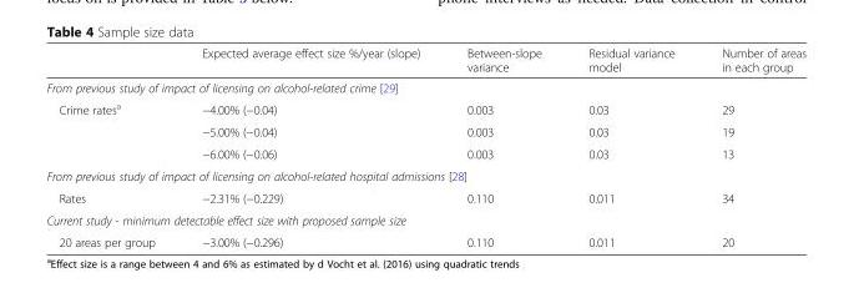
<table><thead><tr><td></td><td>Expected average effect size %/year (slope)</td><td>Between-slope variance</td><td>Residual variance model</td><td>Number of areas in each group</td></tr></thead><tbody><tr><td colspan="5">From previous study of impact of licensing on alcohol-related crime [29]</td></tr><tr><td rowspan="3">Crime rates<sup>a</sup></td><td>−4.00% (−0.04)</td><td>0.003</td><td>0.03</td><td>29</td></tr><tr><td>−5.00% (−0.04)</td><td>0.003</td><td>0.03</td><td>19</td></tr><tr><td>−6.00% (−0.06)</td><td>0.003</td><td>0.03</td><td>13</td></tr><tr><td colspan="5">From previous study of impact of licensing on alcohol-related hospital admissions [28]</td></tr><tr><td>Rates</td><td>−2.31% (−0.229)</td><td>0.110</td><td>0.011</td><td>34</td></tr><tr><td colspan="5">Current study - minimum detectable effect size with proposed sample size</td></tr><tr><td>20 areas per group</td><td>−3.00% (−0.296)</td><td>0.110</td><td>0.011</td><td>20</td></tr></tbody></table>